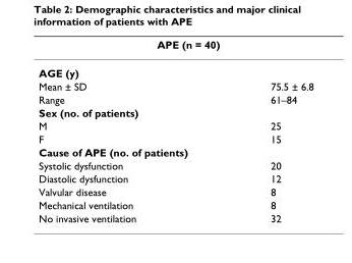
<table><thead><tr><td colspan="2">APE (n = 40)</td></tr><tr><td>AGE (y)</td><td></td></tr></thead><tbody><tr><td>Mean ± SD</td><td>75.5 ± 6.8</td></tr><tr><td>Range</td><td>61–84</td></tr><tr><td colspan="2">Sex (no. of patients)</td></tr><tr><td>M</td><td>25</td></tr><tr><td>F</td><td>15</td></tr><tr><td colspan="2">Cause of APE (no. of patients)</td></tr><tr><td>Systolic dysfunction</td><td>20</td></tr><tr><td>Diastolic dysfunction</td><td>12</td></tr><tr><td>Valvular disease</td><td>8</td></tr><tr><td>Mechanical ventilation</td><td>8</td></tr><tr><td>No invasive ventilation</td><td>32</td></tr></tbody></table>